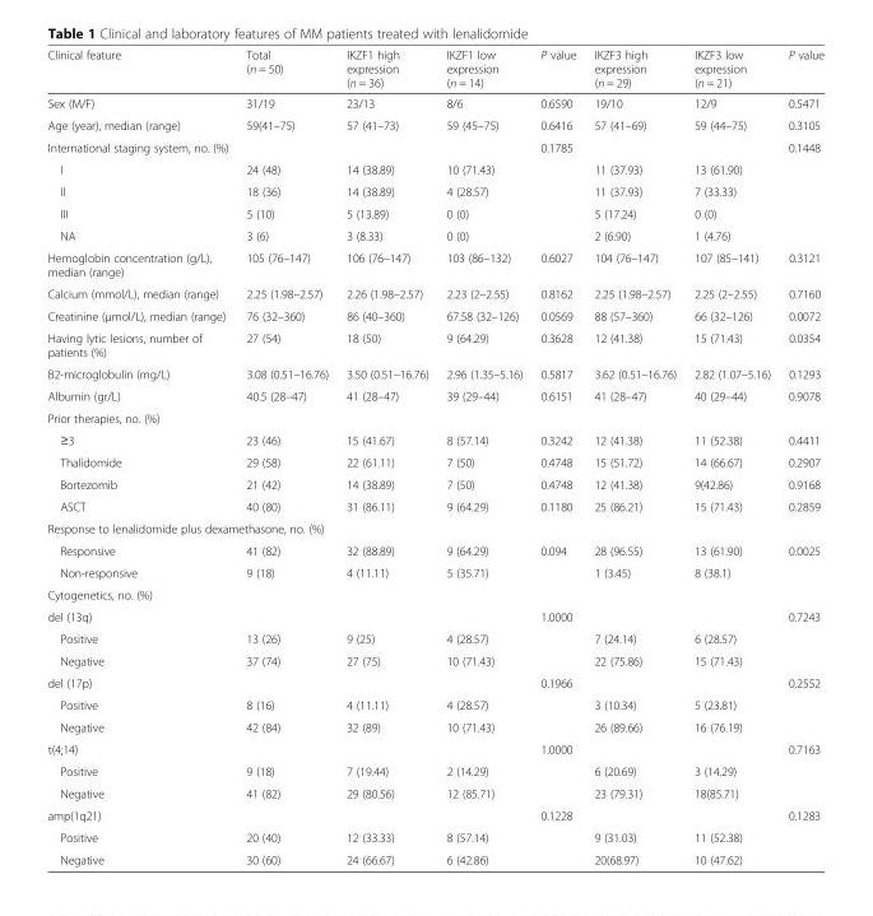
<table><thead><tr><td>Clinical feature</td><td>Total (n = 50)</td><td>IKZF1 high expression (n = 36)</td><td>IKZF1 low expression (n = 14)</td><td>P value</td><td>IKZF3 high expression (n = 29)</td><td>IKZF3 low expression (n = 21)</td><td>P value</td></tr></thead><tbody><tr><td>Sex (M/F)</td><td>31/19</td><td>23/13</td><td>8/6</td><td>0.6590</td><td>19/10</td><td>12/9</td><td>0.5471</td></tr><tr><td>Age (year), median (range)</td><td>59(41–75)</td><td>57 (41–73)</td><td>59 (45–75)</td><td>0.6416</td><td>57 (41–69)</td><td>59 (44–75)</td><td>0.3105</td></tr><tr><td>International staging system, no. (%)</td><td></td><td></td><td></td><td>0.1785</td><td></td><td></td><td>0.1448</td></tr><tr><td>I</td><td>24 (48)</td><td>14 (38.89)</td><td>10 (71.43)</td><td></td><td>11 (37.93)</td><td>13 (61.90)</td><td></td></tr><tr><td>Il</td><td>18 (36)</td><td>14 (38.89)</td><td>4 (28.57)</td><td></td><td>11 (37.93)</td><td>7 (33.33)</td><td></td></tr><tr><td>III</td><td>5 (10)</td><td>5 (13.89)</td><td>0 (0)</td><td></td><td>5 (17.24)</td><td>0 (0)</td><td></td></tr><tr><td>NA</td><td>3 (6)</td><td>3 (8.33)</td><td>0 (0)</td><td></td><td>2 (6.90)</td><td>1 (4.76)</td><td></td></tr><tr><td>Hemoglobin concentration (g/L), median (range)</td><td>105 (76–147)</td><td>106 (76–147)</td><td>103 (86–132)</td><td>0.6027</td><td>104 (76–147)</td><td>107 (85–141)</td><td>0.3121</td></tr><tr><td>Calcium (mmol/L), median (range)</td><td>2.25 (1.98–2.57)</td><td>2.26 (1.98–2.57)</td><td>2.23 (2–2.55)</td><td>0.8162</td><td>2.25 (1.98–2.57)</td><td>2.25 (2–2.55)</td><td>0.7160</td></tr><tr><td>Creatinine (μmol/L), median (range)</td><td>76 (32–360)</td><td>86 (40–360)</td><td>67.58 (32–126)</td><td>0.0569</td><td>88 (57–360)</td><td>66 (32–126)</td><td>0.0072</td></tr><tr><td>Having lytic lesions, number of patients (%)</td><td>27 (54)</td><td>18 (50)</td><td>9 (64.29)</td><td>0.3628</td><td>12 (41.38)</td><td>15 (71.43)</td><td>0.0354</td></tr><tr><td>B2-microglobulin (mg/L)</td><td>3.08 (0.51–16.76)</td><td>3.50 (0.51–16.76)</td><td>2.96 (1.35–5.16)</td><td>0.5817</td><td>3.62 (0.51–16.76)</td><td>2.82 (1.07–5.16)</td><td>0.1293</td></tr><tr><td>Albumin (gr/L)</td><td>40.5 (28–47)</td><td>41 (28–47)</td><td>39 (29–44)</td><td>0.6151</td><td>41 (28–47)</td><td>40 (29–44)</td><td>0.9078</td></tr><tr><td colspan="8">Prior therapies, no. (%)</td></tr><tr><td>≥3</td><td>23 (46)</td><td>15 (41.67)</td><td>8 (57.14)</td><td>0.3242</td><td>12 (41.38)</td><td>11 (52.38)</td><td>0.4411</td></tr><tr><td>Thalidomide</td><td>29 (58)</td><td>22 (61.11)</td><td>7 (50)</td><td>0.4748</td><td>15 (51.72)</td><td>14 (66.67)</td><td>0.2907</td></tr><tr><td>Bortezomib</td><td>21 (42)</td><td>14 (38.89)</td><td>7 (50)</td><td>0.4748</td><td>12 (41.38)</td><td>9(42.86)</td><td>0.9168</td></tr><tr><td>ASCT</td><td>40 (80)</td><td>31 (86.11)</td><td>9 (64.29)</td><td>0.1180</td><td>25 (86.21)</td><td>15 (71.43)</td><td>0.2859</td></tr><tr><td colspan="8">Response to lenalidomide plus dexamethasone, no. (%)</td></tr><tr><td>Responsive</td><td>41 (82)</td><td>32 (88.89)</td><td>9 (64.29)</td><td>0.094</td><td>28 (96.55)</td><td>13 (61.90)</td><td>0.0025</td></tr><tr><td>Non-responsive</td><td>9 (18)</td><td>4 (11.11)</td><td>5 (35.71)</td><td></td><td>1 (3.45)</td><td>8 (38.1)</td><td></td></tr><tr><td colspan="8">Cytogenetics, no. (%)</td></tr><tr><td>del (13q)</td><td></td><td></td><td></td><td>1.0000</td><td></td><td></td><td>0.7243</td></tr><tr><td>Positive</td><td>13 (26)</td><td>9 (25)</td><td>4 (28.57)</td><td></td><td>7 (24.14)</td><td>6 (28.57)</td><td></td></tr><tr><td>Negative</td><td>37 (74)</td><td>27 (75)</td><td>10 (71.43)</td><td></td><td>22 (75.86)</td><td>15 (71.43)</td><td></td></tr><tr><td>del (17p)</td><td></td><td></td><td></td><td>0.1966</td><td></td><td></td><td>0.2552</td></tr><tr><td>Positive</td><td>8 (16)</td><td>4 (11.11)</td><td>4 (28.57)</td><td></td><td>3 (10.34)</td><td>5 (23.81)</td><td></td></tr><tr><td>Negative</td><td>42 (84)</td><td>32 (89)</td><td>10 (71.43)</td><td></td><td>26 (89.66)</td><td>16 (76.19)</td><td></td></tr><tr><td>t(4;14)</td><td></td><td></td><td></td><td>1.0000</td><td></td><td></td><td>0.7163</td></tr><tr><td>Positive</td><td>9 (18)</td><td>7 (19.44)</td><td>2 (14.29)</td><td></td><td>6 (20.69)</td><td>3 (14.29)</td><td></td></tr><tr><td>Negative</td><td>41 (82)</td><td>29 (80.56)</td><td>12 (85.71)</td><td></td><td>23 (79.31)</td><td>18(85.71)</td><td></td></tr><tr><td>amp(1q21)</td><td></td><td></td><td></td><td>0.1228</td><td></td><td></td><td>0.1283</td></tr><tr><td>Positive</td><td>20 (40)</td><td>12 (33.33)</td><td>8 (57.14)</td><td></td><td>9 (31.03)</td><td>11 (52.38)</td><td></td></tr><tr><td>Negative</td><td>30 (60)</td><td>24 (66.67)</td><td>6 (42.86)</td><td></td><td>20(68.97)</td><td>10 (47.62)</td><td></td></tr></tbody></table>